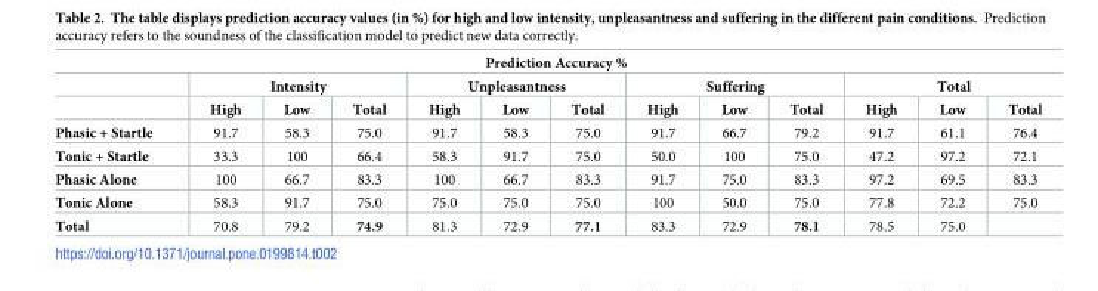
<table><thead><tr><td colspan="13">Prediction Accuracy %</td></tr><tr><td rowspan="2"></td><td colspan="3">Intensity</td><td colspan="3">Unpleasantness</td><td colspan="3">Suffering</td><td colspan="3">Total</td></tr><tr><td>High</td><td>Low</td><td>Total</td><td>High</td><td>Low</td><td>Total</td><td>High</td><td>Low</td><td>Total</td><td>High</td><td>Low</td><td>Total</td></tr></thead><tbody><tr><td>Phasic + Startle</td><td>91.7</td><td>58.3</td><td>75.0</td><td>91.7</td><td>58.3</td><td>75.0</td><td>91.7</td><td>66.7</td><td>79.2</td><td>91.7</td><td>61.1</td><td>76.4</td></tr><tr><td>Tonic + Startle</td><td>33.3</td><td>100</td><td>66.4</td><td>58.3</td><td>91.7</td><td>75.0</td><td>50.0</td><td>100</td><td>75.0</td><td>47.2</td><td>97.2</td><td>72.1</td></tr><tr><td>Phasic Alone</td><td>100</td><td>66.7</td><td>83.3</td><td>100</td><td>66.7</td><td>83.3</td><td>91.7</td><td>75.0</td><td>83.3</td><td>97.2</td><td>69.5</td><td>83.3</td></tr><tr><td>Tonic Alone</td><td>58.3</td><td>91.7</td><td>75.0</td><td>75.0</td><td>75.0</td><td>75.0</td><td>100</td><td>50.0</td><td>75.0</td><td>77.8</td><td>72.2</td><td>75.0</td></tr><tr><td>Total</td><td>70.8</td><td>79.2</td><td>74.9</td><td>81.3</td><td>72.9</td><td>77.1</td><td>83.3</td><td>72.9</td><td>78.1</td><td>78.5</td><td>75.0</td><td></td></tr></tbody></table>